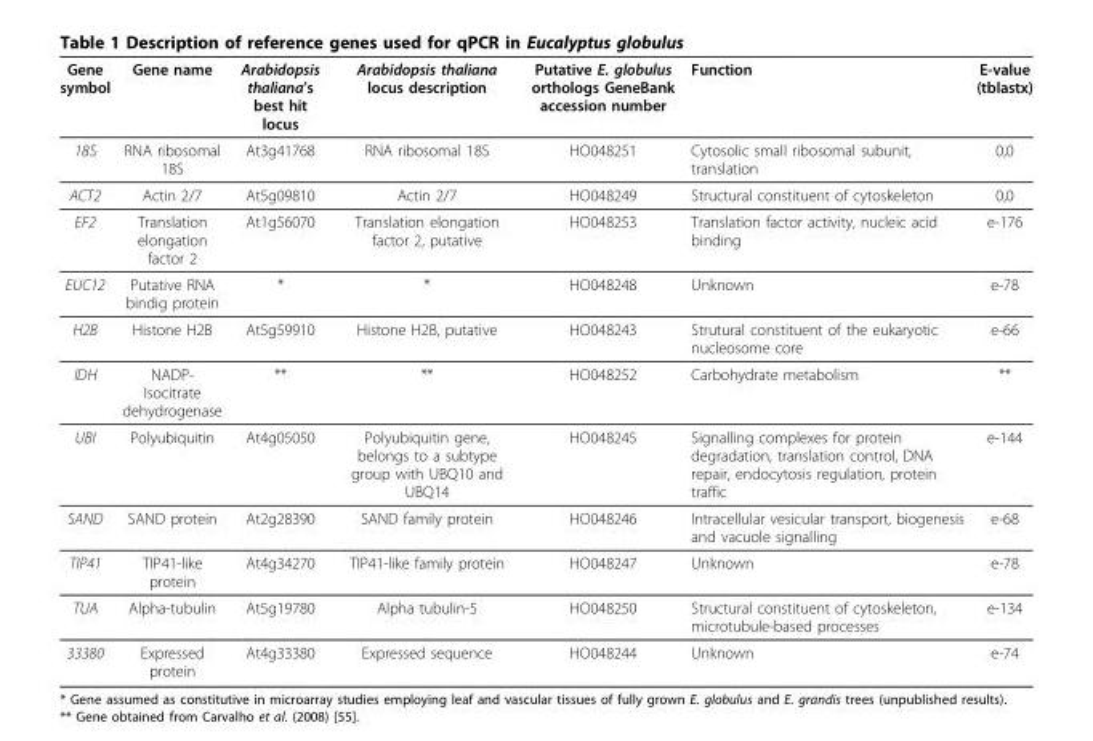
<table><thead><tr><td>Gene symbol</td><td>Gene name</td><td>Arabidopsis thaliana’s best hit locus</td><td>Arabidopsis thaliana locus description</td><td>Putative E. globulus orthologs GeneBank accession number</td><td>Function</td><td>E-value (tblastx)</td></tr></thead><tbody><tr><td>18S</td><td>RNA ribosomal 18S</td><td>At3g41768</td><td>RNA ribosomal 18S</td><td>HO048251</td><td>Cytosolic small ribosomal subunit, translation</td><td>0,0</td></tr><tr><td>ACT2</td><td>Actin 2/7</td><td>At5g09810</td><td>Actin 2/7</td><td>HO048249</td><td>Structural constituent of cytoskeleton</td><td>0,0</td></tr><tr><td>EF2</td><td>Translation elongation factor 2</td><td>At1g56070</td><td>Translation elongation factor 2, putative</td><td>HO048253</td><td>Translation factor activity, nucleic acid binding</td><td>e-176</td></tr><tr><td>EUC12</td><td>Putative RNA bindig protein</td><td>*</td><td>*</td><td>HO048248</td><td>Unknown</td><td>e-78</td></tr><tr><td>H2B</td><td>Histone H2B</td><td>At5g59910</td><td>Histone H2B, putative</td><td>HO048243</td><td>Strutural constituent of the eukaryotic nucleosome core</td><td>e-66</td></tr><tr><td>IDH</td><td>NADP- Isocitrate dehydrogenase</td><td>**</td><td>**</td><td>HO048252</td><td>Carbohydrate metabolism</td><td>**</td></tr><tr><td>UBI</td><td>Polyubiquitin</td><td>At4g05050</td><td>Polyubiquitin gene, belongs to a subtype group with UBQ10 and UBQ14</td><td>HO048245</td><td>Signalling complexes for protein degradation, translation control, DNA repair, endocytosis regulation, protein traffic</td><td>e-144</td></tr><tr><td>SAND</td><td>SAND protein</td><td>At2g28390</td><td>SAND family protein</td><td>HO048246</td><td>Intracellular vesicular transport, biogenesis and vacuole signalling</td><td>e-68</td></tr><tr><td>TIP41</td><td>TIP41-like protein</td><td>At4g34270</td><td>TIP41-like family protein</td><td>HO048247</td><td>Unknown</td><td>e-78</td></tr><tr><td>TUA</td><td>Alpha-tubulin</td><td>At5g19780</td><td>Alpha tubulin-5</td><td>HO048250</td><td>Structural constituent of cytoskeleton, microtubule-based processes</td><td>e-134</td></tr><tr><td>33380</td><td>Expressed protein</td><td>At4g33380</td><td>Expressed sequence</td><td>HO048244</td><td>Unknown</td><td>e-74</td></tr></tbody></table>